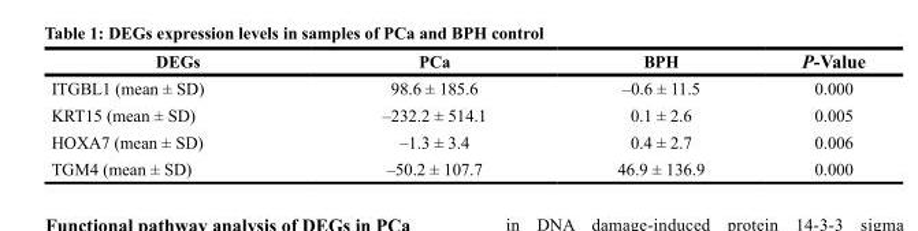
<table><thead><tr><td>DEGs</td><td>PCa</td><td>BPH</td><td>P-Value</td></tr></thead><tbody><tr><td>ITGBL1 (mean ± SD)</td><td>98.6 ± 185.6</td><td>–0.6 ± 11.5</td><td>0.000</td></tr><tr><td>KRT15 (mean ± SD)</td><td>–232.2 ± 514.1</td><td>0.1 ± 2.6</td><td>0.005</td></tr><tr><td>HOXA7 (mean ± SD)</td><td>–1.3 ± 3.4</td><td>0.4 ± 2.7</td><td>0.006</td></tr><tr><td>TGM4 (mean ± SD)</td><td>–50.2 ± 107.7</td><td>46.9 ± 136.9</td><td>0.000</td></tr></tbody></table>